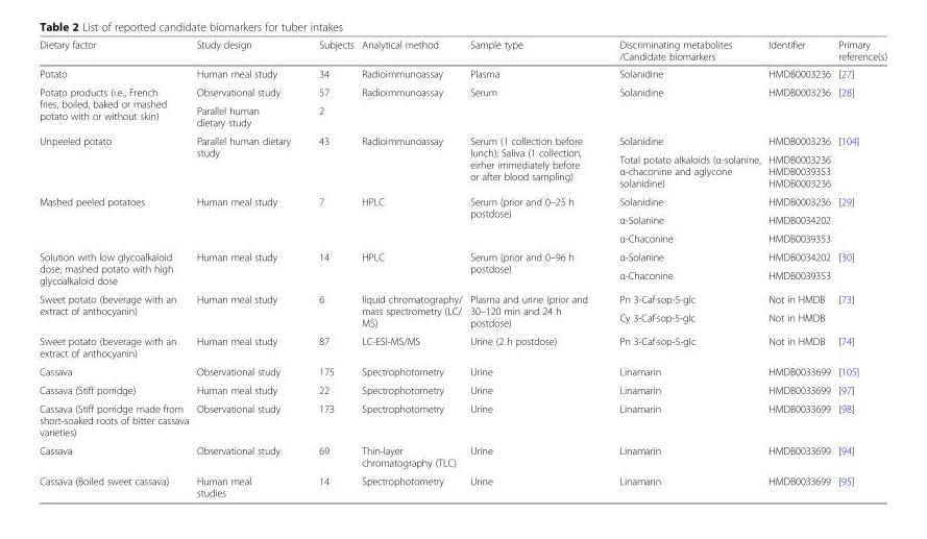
<table><thead><tr><td>Dietary factor</td><td>Study design</td><td>Subjects</td><td>Analytical method</td><td>Sample type</td><td>Discriminating metabolites /Candidate biomarkers</td><td>Identifier</td><td>Primary reference(s)</td></tr></thead><tbody><tr><td>Potato</td><td>Human meal study</td><td>34</td><td>Radioimmunoassay</td><td>Plasma</td><td>Solanidine</td><td>HMDB0003236</td><td>[27]</td></tr><tr><td rowspan="2">Potato products (i.e., French fries, boiled, baked or mashed potato with or without skin)</td><td>Observational study</td><td>57</td><td rowspan="2">Radioimmunoassay</td><td rowspan="2">Serum</td><td rowspan="2">Solanidine</td><td rowspan="2">HMDB0003236</td><td rowspan="2">[28]</td></tr><tr><td>Parallel human dietary study</td><td>2</td></tr><tr><td rowspan="2">Unpeeled potato</td><td rowspan="2">Parallel human dietary study</td><td rowspan="2">43</td><td rowspan="2">Radioimmunoassay</td><td rowspan="2">Serum (1 collection before lunch); Saliva (1 collection, eirher immediately before or after blood sampling)</td><td>Solanidine</td><td>HMDB0003236</td><td rowspan="2">[104]</td></tr><tr><td>Total potato alkaloids (α-solanine, α-chaconine and aglycone solanidine)</td><td>HMDB0003236 HMDB0039353 HMDB0003236</td></tr><tr><td rowspan="3">Mashed peeled potatoes</td><td rowspan="3">Human meal study</td><td rowspan="3">7</td><td rowspan="3">HPLC</td><td rowspan="3">Serum (prior and 0–25 h postdose)</td><td>Solanidine</td><td>HMDB0003236</td><td rowspan="3">[29]</td></tr><tr><td>α-Solanine</td><td>HMDB0034202</td></tr><tr><td>α-Chaconine</td><td>HMDB0039353</td></tr><tr><td rowspan="2">Solution with low glycoalkaloid dose; mashed potato with high glycoalkaloid dose</td><td rowspan="2">Human meal study</td><td rowspan="2">14</td><td rowspan="2">HPLC</td><td rowspan="2">Serum (prior and 0–96 h postdose)</td><td>α-Solanine</td><td>HMDB0034202</td><td rowspan="2">[30]</td></tr><tr><td>α-Chaconine</td><td>HMDB0039353</td></tr><tr><td rowspan="2">Sweet potato (beverage with an extract of anthocyanin)</td><td rowspan="2">Human meal study</td><td rowspan="2">6</td><td rowspan="2">liquid chromatography/ mass spectrometry (LC/ MS)</td><td rowspan="2">Plasma and urine (prior and 30–120 min and 24 h postdose)</td><td>Pn 3-Caf·sop-5-glc</td><td>Not in HMDB</td><td rowspan="2">[73]</td></tr><tr><td>Cy 3-Caf·sop-5-glc</td><td>Not in HMDB</td></tr><tr><td>Sweet potato (beverage with an extract of anthocyanin)</td><td>Human meal study</td><td>87</td><td>LC-ESI-MS/MS</td><td>Urine (2 h postdose)</td><td>Pn 3-Caf·sop-5-glc</td><td>Not in HMDB</td><td>[74]</td></tr><tr><td>Cassava</td><td>Observational study</td><td>175</td><td>Spectrophotometry</td><td>Urine</td><td>Linamarin</td><td>HMDB0033699</td><td>[105]</td></tr><tr><td>Cassava (Stiff porridge)</td><td>Human meal study</td><td>22</td><td>Spectrophotometry</td><td>Urine</td><td>Linamarin</td><td>HMDB0033699</td><td>[97]</td></tr><tr><td>Cassava (Stiff porridge made from short-soaked roots of bitter cassava varieties)</td><td>Observational study</td><td>173</td><td>Spectrophotometry</td><td>Urine</td><td>Linamarin</td><td>HMDB0033699</td><td>[98]</td></tr><tr><td>Cassava</td><td>Observational study</td><td>69</td><td>Thin-layer chromatography (TLC)</td><td>Urine</td><td>Linamarin</td><td>HMDB0033699</td><td>[94]</td></tr><tr><td>Cassava (Boiled sweet cassava)</td><td>Human meal studies</td><td>14</td><td>Spectrophotometry</td><td>Urine</td><td>Linamarin</td><td>HMDB0033699</td><td>[95]</td></tr></tbody></table>